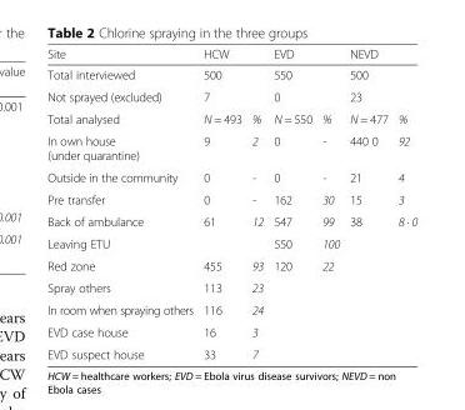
<table><thead><tr><td>Site</td><td>HCW</td><td></td><td>EVD</td><td></td><td>NEVD</td><td></td></tr></thead><tbody><tr><td>Total interviewed</td><td>500</td><td></td><td>550</td><td></td><td>500</td><td></td></tr><tr><td>Not sprayed (excluded)</td><td>7</td><td></td><td>0</td><td></td><td>23</td><td></td></tr><tr><td>Total analysed</td><td>N = 493</td><td>%</td><td>N = 550</td><td>%</td><td>N = 477</td><td>%</td></tr><tr><td>In own house (under quarantine)</td><td>9</td><td>2</td><td>0</td><td>-</td><td>440 0</td><td>92</td></tr><tr><td>Outside in the community</td><td>0</td><td>-</td><td>0</td><td>-</td><td>21</td><td>4</td></tr><tr><td>Pre transfer</td><td>0</td><td>-</td><td>162</td><td>30</td><td>15</td><td>3</td></tr><tr><td>Back of ambulance</td><td>61</td><td>12</td><td>547</td><td>99</td><td>38</td><td>8 · 0</td></tr><tr><td>Leaving ETU</td><td></td><td></td><td>550</td><td>100</td><td></td><td></td></tr><tr><td>Red zone</td><td>455</td><td>93</td><td>120</td><td>22</td><td></td><td></td></tr><tr><td>Spray others</td><td>113</td><td>23</td><td></td><td></td><td></td><td></td></tr><tr><td>In room when spraying others</td><td>116</td><td>24</td><td></td><td></td><td></td><td></td></tr><tr><td>EVD case house</td><td>16</td><td>3</td><td></td><td></td><td></td><td></td></tr><tr><td>EVD suspect house</td><td>33</td><td>7</td><td></td><td></td><td></td><td></td></tr></tbody></table>